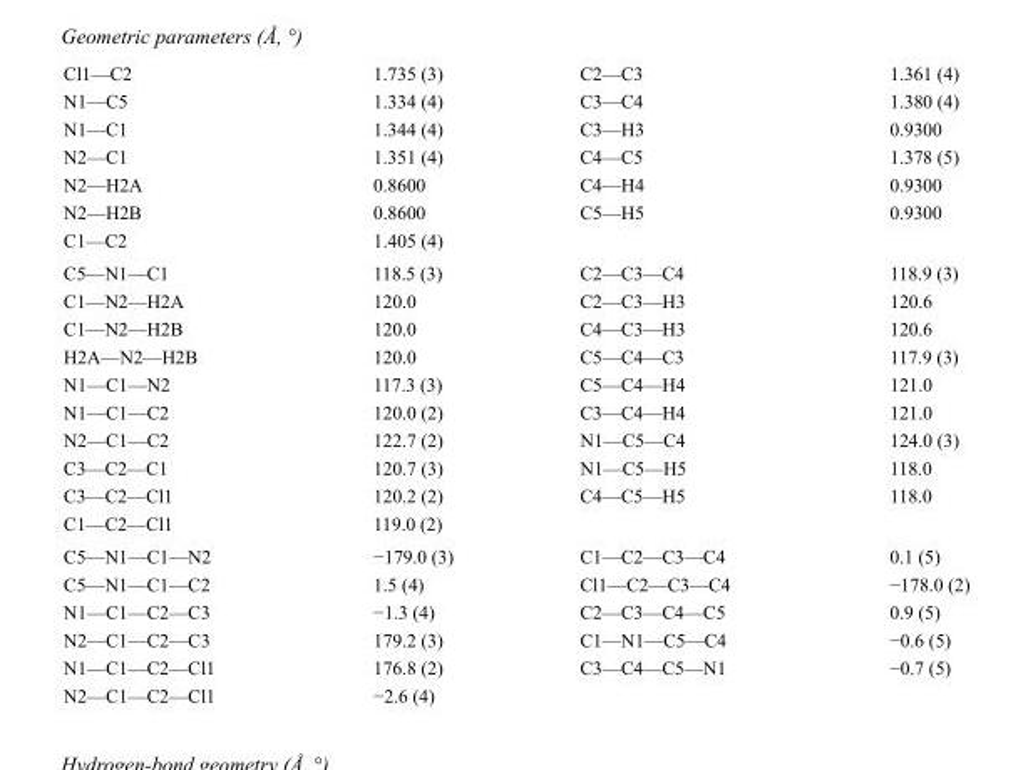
<table><tbody><tr><td>Cl1—C2</td><td>1.735 (3)</td><td>C2—C3</td><td>1.361 (4)</td></tr><tr><td>N1—C5</td><td>1.334 (4)</td><td>C3—C4</td><td>1.380 (4)</td></tr><tr><td>N1—C1</td><td>1.344 (4)</td><td>C3—H3</td><td>0.9300</td></tr><tr><td>N2—C1</td><td>1.351 (4)</td><td>C4—C5</td><td>1.378 (5)</td></tr><tr><td>N2—H2A</td><td>0.8600</td><td>C4—H4</td><td>0.9300</td></tr><tr><td>N2—H2B</td><td>0.8600</td><td>C5—H5</td><td>0.9300</td></tr><tr><td>C1—C2</td><td>1.405 (4)</td><td></td><td></td></tr><tr><td>C5—N1—C1</td><td>118.5 (3)</td><td>C2—C3—C4</td><td>118.9 (3)</td></tr><tr><td>C1—N2—H2A</td><td>120.0</td><td>C2—C3—H3</td><td>120.6</td></tr><tr><td>C1—N2—H2B</td><td>120.0</td><td>C4—C3—H3</td><td>120.6</td></tr><tr><td>H2A—N2—H2B</td><td>120.0</td><td>C5—C4—C3</td><td>117.9 (3)</td></tr><tr><td>N1—C1—N2</td><td>117.3 (3)</td><td>C5—C4—H4</td><td>121.0</td></tr><tr><td>N1—C1—C2</td><td>120.0 (2)</td><td>C3—C4—H4</td><td>121.0</td></tr><tr><td>N2—C1—C2</td><td>122.7 (2)</td><td>N1—C5—C4</td><td>124.0 (3)</td></tr><tr><td>C3—C2—C1</td><td>120.7 (3)</td><td>N1—C5—H5</td><td>118.0</td></tr><tr><td>C3—C2—Cl1</td><td>120.2 (2)</td><td>C4—C5—H5</td><td>118.0</td></tr><tr><td>C1—C2—Cl1</td><td>119.0 (2)</td><td></td><td></td></tr><tr><td>C5—N1—C1—N2</td><td>−179.0 (3)</td><td>C1—C2—C3—C4</td><td>0.1 (5)</td></tr><tr><td>C5—N1—C1—C2</td><td>1.5 (4)</td><td>Cl1—C2—C3—C4</td><td>−178.0 (2)</td></tr><tr><td>N1—C1—C2—C3</td><td>−1.3 (4)</td><td>C2—C3—C4—C5</td><td>0.9 (5)</td></tr><tr><td>N2—C1—C2—C3</td><td>179.2 (3)</td><td>C1—N1—C5—C4</td><td>−0.6 (5)</td></tr><tr><td>N1—C1—C2—Cl1</td><td>176.8 (2)</td><td>C3—C4—C5—N1</td><td>−0.7 (5)</td></tr><tr><td>N2—C1—C2—Cl1</td><td>−2.6 (4)</td><td></td><td></td></tr></tbody></table>